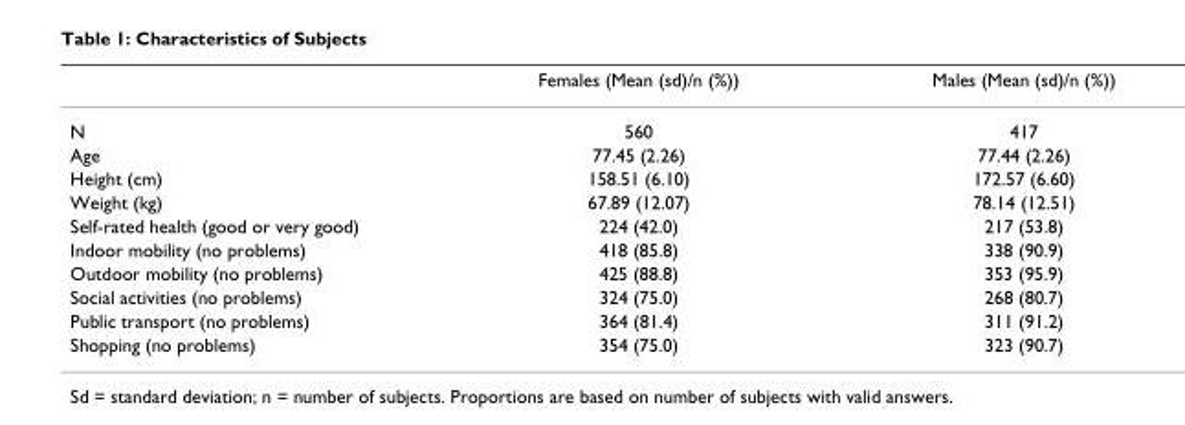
<table><thead><tr><td></td><td>Females (Mean (sd)/n (%))</td><td>Males (Mean (sd)/n (%))</td></tr></thead><tbody><tr><td>N</td><td>560</td><td>417</td></tr><tr><td>Age</td><td>77.45 (2.26)</td><td>77.44 (2.26)</td></tr><tr><td>Height (cm)</td><td>158.51 (6.10)</td><td>172.57 (6.60)</td></tr><tr><td>Weight (kg)</td><td>67.89 (12.07)</td><td>78.14 (12.51)</td></tr><tr><td>Self-rated health (good or very good)</td><td>224 (42.0)</td><td>217 (53.8)</td></tr><tr><td>Indoor mobility (no problems)</td><td>418 (85.8)</td><td>338 (90.9)</td></tr><tr><td>Outdoor mobility (no problems)</td><td>425 (88.8)</td><td>353 (95.9)</td></tr><tr><td>Social activities (no problems)</td><td>324 (75.0)</td><td>268 (80.7)</td></tr><tr><td>Public transport (no problems)</td><td>364 (81.4)</td><td>311 (91.2)</td></tr><tr><td>Shopping (no problems)</td><td>354 (75.0)</td><td>323 (90.7)</td></tr></tbody></table>